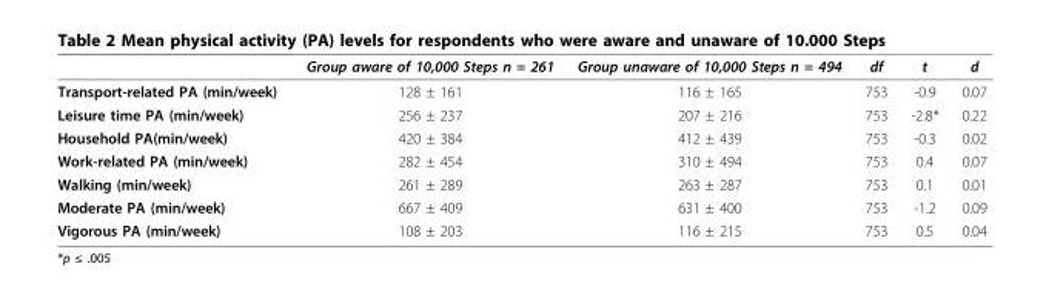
<table><thead><tr><td></td><td>Group aware of 10,000 Steps n = 261</td><td>Group unaware of 10,000 Steps n = 494</td><td>df</td><td>t</td><td>d</td></tr></thead><tbody><tr><td>Transport-related PA (min/week)</td><td>128 ± 161</td><td>116 ± 165</td><td>753</td><td>-0.9</td><td>0.07</td></tr><tr><td>Leisure time PA (min/week)</td><td>256 ± 237</td><td>207 ± 216</td><td>753</td><td>-2.8*</td><td>0.22</td></tr><tr><td>Household PA(min/week)</td><td>420 ± 384</td><td>412 ± 439</td><td>753</td><td>-0.3</td><td>0.02</td></tr><tr><td>Work-related PA (min/week)</td><td>282 ± 454</td><td>310 ± 494</td><td>753</td><td>0.4</td><td>0.07</td></tr><tr><td>Walking (min/week)</td><td>261 ± 289</td><td>263 ± 287</td><td>753</td><td>0.1</td><td>0.01</td></tr><tr><td>Moderate PA (min/week)</td><td>667 ± 409</td><td>631 ± 400</td><td>753</td><td>-1.2</td><td>0.09</td></tr><tr><td>Vigorous PA (min/week)</td><td>108 ± 203</td><td>116 ± 215</td><td>753</td><td>0.5</td><td>0.04</td></tr></tbody></table>